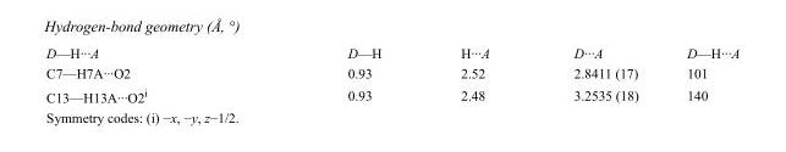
<table><tbody><tr><td>D—H···A</td><td>D—H</td><td>H···A</td><td>D···A</td><td>D—H···A</td></tr><tr><td>C7—H7A···O2</td><td>0.93</td><td>2.52</td><td>2.8411 (17)</td><td>101</td></tr><tr><td>C13—H13A···O2<sup>i</sup></td><td>0.93</td><td>2.48</td><td>3.2535 (18)</td><td>140</td></tr></tbody></table>